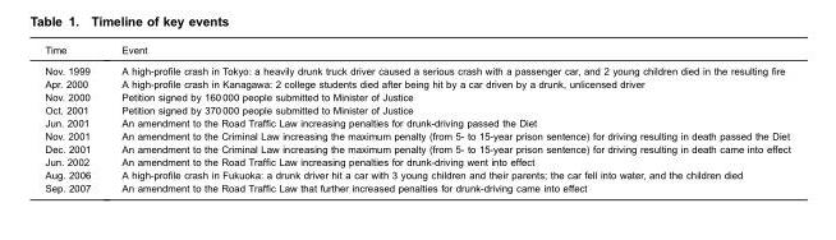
<table><thead><tr><td>Time</td><td>Event</td></tr></thead><tbody><tr><td>Nov. 1999</td><td>A high-profile crash in Tokyo: a heavily drunk truck driver caused a serious crash with a passenger car, and 2 young children died in the resulting fire</td></tr><tr><td>Apr. 2000</td><td>A high-profile crash in Kanagawa: 2 college students died after being hit by a car driven by a drunk, unlicensed driver</td></tr><tr><td>Nov. 2000</td><td>Petition signed by 160 000 people submitted to Minister of Justice</td></tr><tr><td>Oct. 2001</td><td>Petition signed by 370 000 people submitted to Minister of Justice</td></tr><tr><td>Jun. 2001</td><td>An amendment to the Road Traffic Law increasing penalties for drunk-driving passed the Diet</td></tr><tr><td>Nov. 2001</td><td>An amendment to the Criminal Law increasing the maximum penalty (from 5- to 15-year prison sentence) for driving resulting in death passed the Diet</td></tr><tr><td>Dec. 2001</td><td>An amendment to the Criminal Law increasing the maximum penalty (from 5- to 15-year prison sentence) for driving resulting in death came into effect</td></tr><tr><td>Jun. 2002</td><td>An amendment to the Road Traffic Law increasing penalties for drunk-driving went into effect</td></tr><tr><td>Aug. 2006</td><td>A high-profile crash in Fukuoka: a drunk driver hit a car with 3 young children and their parents; the car fell into water, and the children died</td></tr><tr><td>Sep. 2007</td><td>An amendment to the Road Traffic Law that further increased penalties for drunk-driving came into effect</td></tr></tbody></table>